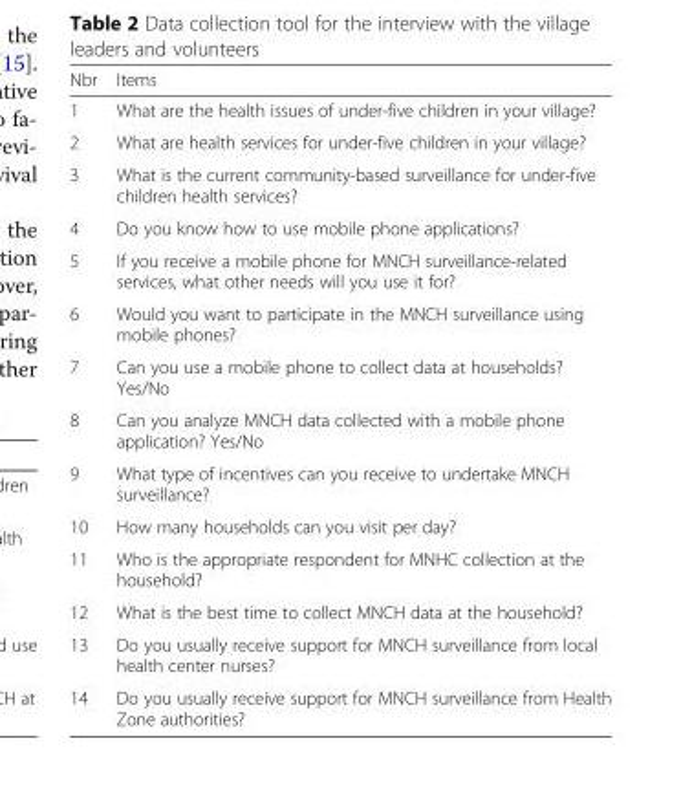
<table><thead><tr><td>Nbr</td><td>Items</td></tr></thead><tbody><tr><td>1</td><td>What are the health issues of under-five children in your village?</td></tr><tr><td>2</td><td>What are health services for under-five children in your village?</td></tr><tr><td>3</td><td>What is the current community-based surveillance for under-five children health services?</td></tr><tr><td>4</td><td>Do you know how to use mobile phone applications?</td></tr><tr><td>5</td><td>If you receive a mobile phone for MNCH surveillance-related services, what other needs will you use it for?</td></tr><tr><td>6</td><td>Would you want to participate in the MNCH surveillance using mobile phones?</td></tr><tr><td>7</td><td>Can you use a mobile phone to collect data at households? Yes/No</td></tr><tr><td>8</td><td>Can you analyze MNCH data collected with a mobile phone application? Yes/No</td></tr><tr><td>9</td><td>What type of incentives can you receive to undertake MNCH surveillance?</td></tr><tr><td>10</td><td>How many households can you visit per day?</td></tr><tr><td>11</td><td>Who is the appropriate respondent for MNHC collection at the household?</td></tr><tr><td>12</td><td>What is the best time to collect MNCH data at the household?</td></tr><tr><td>13</td><td>Do you usually receive support for MNCH surveillance from local health center nurses?</td></tr><tr><td>14</td><td>Do you usually receive support for MNCH surveillance from Health Zone authorities?</td></tr></tbody></table>